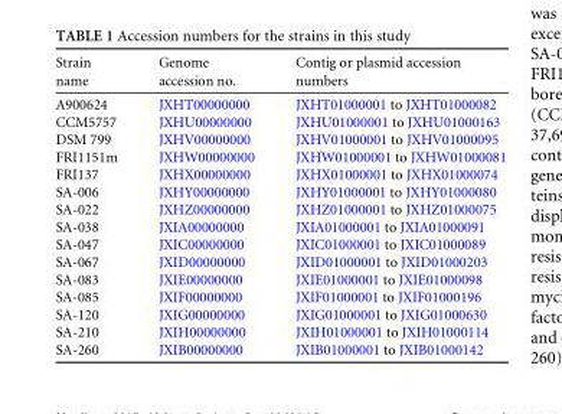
<table><thead><tr><td>Strain name</td><td>Genome accession no.</td><td>Contig or plasmid accession numbers</td></tr></thead><tbody><tr><td>A900624</td><td>JXHT00000000</td><td>JXHT01000001 to JXHT01000082</td></tr><tr><td>CCM5757</td><td>JXHU00000000</td><td>JXHU01000001 to JXHU01000163</td></tr><tr><td>DSM 799</td><td>JXHV00000000</td><td>JXHV01000001 to JXHV01000095</td></tr><tr><td>FRI1151m</td><td>JXHW00000000</td><td>JXHW01000001 to JXHW01000081</td></tr><tr><td>FRI137</td><td>JXHX00000000</td><td>JXHX01000001 to JXHX01000074</td></tr><tr><td>SA-006</td><td>JXHY00000000</td><td>JXHY01000001 to JXHY01000080</td></tr><tr><td>SA-022</td><td>JXHZ00000000</td><td>JXHZ01000001 to JXHZ01000075</td></tr><tr><td>SA-038</td><td>JXIA00000000</td><td>JXIA01000001 to JXIA01000091</td></tr><tr><td>SA-047</td><td>JXIC00000000</td><td>JXIC01000001 to JXIC01000089</td></tr><tr><td>SA-067</td><td>JXID00000000</td><td>JXID01000001 to JXID01000203</td></tr><tr><td>SA-083</td><td>JXIE00000000</td><td>JXIE01000001 to JXIE01000098</td></tr><tr><td>SA-085</td><td>JXIF00000000</td><td>JXIF01000001 to JXIF01000196</td></tr><tr><td>SA-120</td><td>JXIG00000000</td><td>JXIG01000001 to JXIG01000630</td></tr><tr><td>SA-210</td><td>JXIH00000000</td><td>JXIH01000001 to JXIH01000114</td></tr><tr><td>SA-260</td><td>JXIB00000000</td><td>JXIB01000001 to JXIB01000142</td></tr></tbody></table>